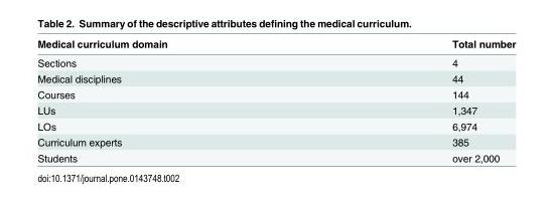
<table><thead><tr><td>Medical curriculum domain</td><td>Total number</td></tr></thead><tbody><tr><td>Sections</td><td>4</td></tr><tr><td>Medical disciplines</td><td>44</td></tr><tr><td>Courses</td><td>144</td></tr><tr><td>LUs</td><td>1,347</td></tr><tr><td>LOs</td><td>6,974</td></tr><tr><td>Curriculum experts</td><td>385</td></tr><tr><td>Students</td><td>over 2,000</td></tr></tbody></table>